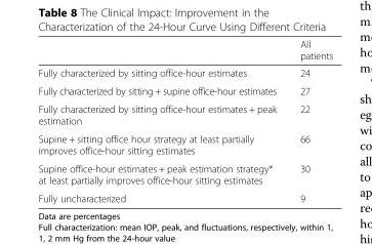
<table><thead><tr><td></td><td>All patients</td></tr></thead><tbody><tr><td>Fully characterized by sitting office-hour estimates</td><td>24</td></tr><tr><td>Fully characterized by sitting + supine office-hour estimates</td><td>27</td></tr><tr><td>Fully characterized by sitting office-hour estimates + peak estimation</td><td>22</td></tr><tr><td>Supine + sitting office hour strategy at least partially improves office-hour sitting estimates</td><td>66</td></tr><tr><td>Supine office-hour estimates + peak estimation strategy* at least partially improves office-hour sitting estimates</td><td>30</td></tr><tr><td>Fully uncharacterized</td><td>9</td></tr></tbody></table>